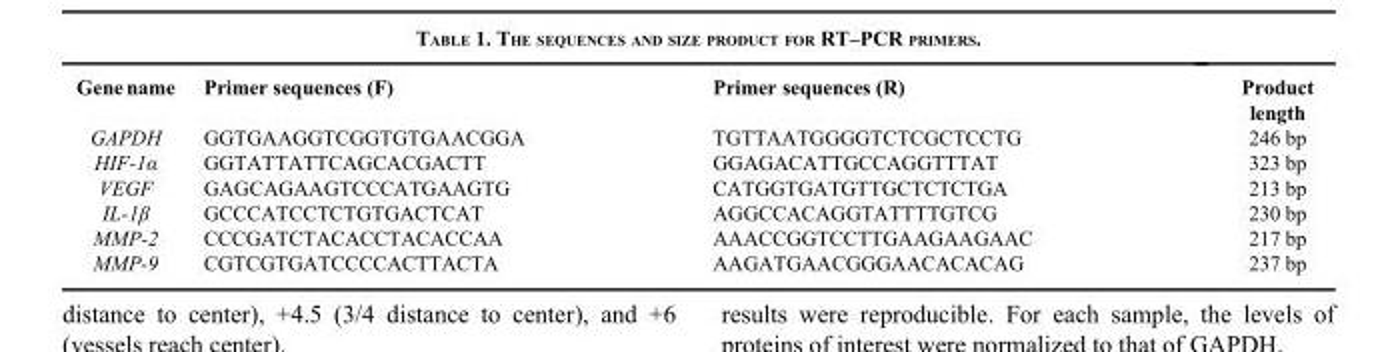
<table><thead><tr><td>Gene name</td><td>Primer sequences (F)</td><td>Primer sequences (R)</td><td>Product length</td></tr></thead><tbody><tr><td>GAPDH</td><td>GGTGAAGGTCGGTGTGAACGGA</td><td>TGTTAATGGGGTCTCGCTCCTG</td><td>246 bp</td></tr><tr><td>HIF-1α</td><td>GGTATTATTCAGCACGACTT</td><td>GGAGACATTGCCAGGTTTAT</td><td>323 bp</td></tr><tr><td>VEGF</td><td>GAGCAGAAGTCCCATGAAGTG</td><td>CATGGTGATGTTGCTCTCTGA</td><td>213 bp</td></tr><tr><td>IL-1β</td><td>GCCCATCCTCTGTGACTCAT</td><td>AGGCCACAGGTATTTTGTCG</td><td>230 bp</td></tr><tr><td>MMP-2</td><td>CCCGATCTACACCTACACCAA</td><td>AAACCGGTCCTTGAAGAAGAAC</td><td>217 bp</td></tr><tr><td>MMP-9</td><td>CGTCGTGATCCCCACTTACTA</td><td>AAGATGAACGGGAACACACAG</td><td>237 bp</td></tr></tbody></table>